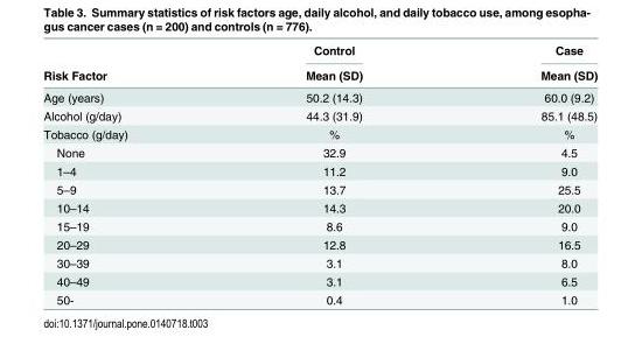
<table><thead><tr><td rowspan="2">Risk Factor</td><td rowspan="2">Control Mean (SD)</td><td rowspan="2">Case Mean (SD)</td></tr><tr></tr></thead><tbody><tr><td>Age (years)</td><td>50.2 (14.3)</td><td>60.0 (9.2)</td></tr><tr><td>Alcohol (g/day)</td><td>44.3 (31.9)</td><td>85.1 (48.5)</td></tr><tr><td>Tobacco (g/day)</td><td>%</td><td>%</td></tr><tr><td>None</td><td>32.9</td><td>4.5</td></tr><tr><td>1–4</td><td>11.2</td><td>9.0</td></tr><tr><td>5–9</td><td>13.7</td><td>25.5</td></tr><tr><td>10–14</td><td>14.3</td><td>20.0</td></tr><tr><td>15–19</td><td>8.6</td><td>9.0</td></tr><tr><td>20–29</td><td>12.8</td><td>16.5</td></tr><tr><td>30–39</td><td>3.1</td><td>8.0</td></tr><tr><td>40–49</td><td>3.1</td><td>6.5</td></tr><tr><td>50-</td><td>0.4</td><td>1.0</td></tr></tbody></table>